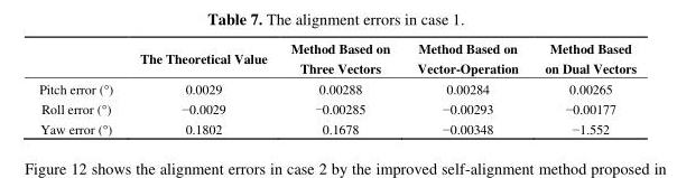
<table><thead><tr><td></td><td>The Theoretical Value</td><td>Method Based on Three Vectors</td><td>Method Based on Vector-Operation</td><td>Method Based on Dual Vectors</td></tr></thead><tbody><tr><td>Pitch error (°)</td><td>0.0029</td><td>0.00288</td><td>0.00284</td><td>0.00265</td></tr><tr><td>Roll error (°)</td><td>−0.0029</td><td>−0.00285</td><td>−0.00293</td><td>−0.00177</td></tr><tr><td>Yaw error (°)</td><td>0.1802</td><td>0.1678</td><td>−0.00348</td><td>−1.552</td></tr></tbody></table>